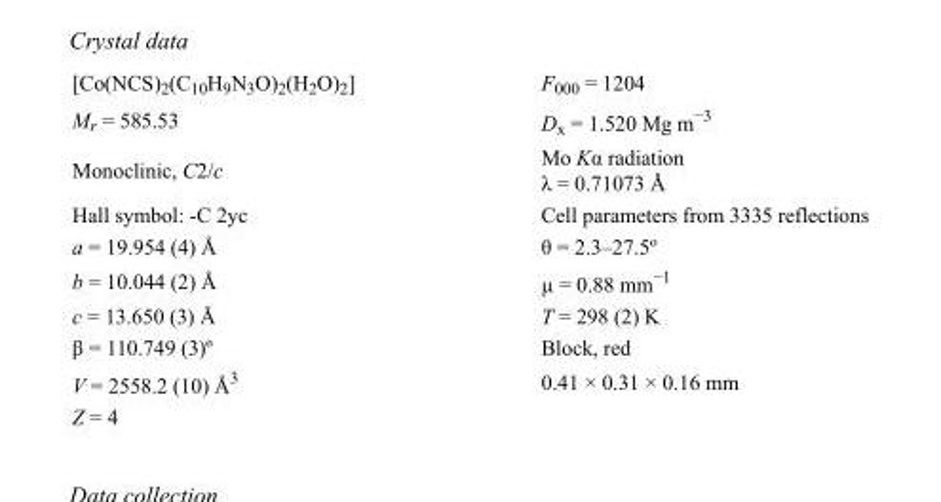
<table><tbody><tr><td>[Co(NCS)<sub>2</sub>(C<sub>10</sub>H<sub>9</sub>N<sub>3</sub>O)<sub>2</sub>(H<sub>2</sub>O)<sub>2</sub>]</td><td>F000 = 1204</td></tr><tr><td>M<sub>r</sub> = 585.53</td><td>D<sub>x</sub> = 1.520 Mg m<sup>−3</sup></td></tr><tr><td>Monoclinic, C2/c</td><td>Mo Kα radiation λ = 0.71073 Å</td></tr><tr><td>Hall symbol: -C 2yc</td><td>Cell parameters from 3335 reflections</td></tr><tr><td>a = 19.954 (4) Å</td><td>θ = 2.3–27.5º</td></tr><tr><td>b = 10.044 (2) Å</td><td>µ = 0.88 mm<sup>−1</sup></td></tr><tr><td>c = 13.650 (3) Å</td><td>T = 298 (2) K</td></tr><tr><td>β = 110.749 (3)º</td><td>Block, red</td></tr><tr><td>V = 2558.2 (10) Å<sup>3</sup></td><td>0.41 × 0.31 × 0.16 mm</td></tr><tr><td>Z = 4</td><td></td></tr></tbody></table>